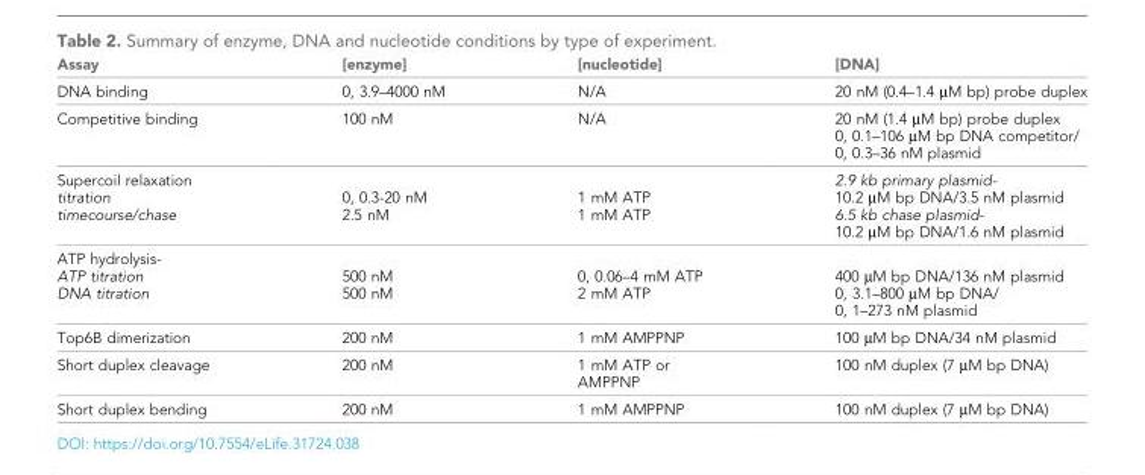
<table><thead><tr><td>Assay</td><td>[enzyme]</td><td>[nucleotide]</td><td>[DNA]</td></tr></thead><tbody><tr><td>DNA binding</td><td>0, 3.9–4000 nM</td><td>N/A</td><td>20 nM (0.4–1.4 μM bp) probe duplex</td></tr><tr><td>Competitive binding</td><td>100 nM</td><td>N/A</td><td>20 nM (1.4 μM bp) probe duplex 0, 0.1–106 μM bp DNA competitor/ 0, 0.3–36 nM plasmid</td></tr><tr><td>Supercoil relaxation titration timecourse/chase</td><td>0, 0.3-20 nM 2.5 nM</td><td>1 mM ATP 1 mM ATP</td><td>2.9 kb primary plasmid- 10.2 μM bp DNA/3.5 nM plasmid 6.5 kb chase plasmid- 10.2 μM bp DNA/1.6 nM plasmid</td></tr><tr><td>ATP hydrolysis- ATP titration DNA titration</td><td>500 nM 500 nM</td><td>0, 0.06–4 mM ATP 2 mM ATP</td><td>400 μM bp DNA/136 nM plasmid 0, 3.1–800 μM bp DNA/ 0, 1–273 nM plasmid</td></tr><tr><td>Top6B dimerization</td><td>200 nM</td><td>1 mM AMPPNP</td><td>100 μM bp DNA/34 nM plasmid</td></tr><tr><td>Short duplex cleavage</td><td>200 nM</td><td>1 mM ATP or AMPPNP</td><td>100 nM duplex (7 μM bp DNA)</td></tr><tr><td>Short duplex bending</td><td>200 nM</td><td>1 mM AMPPNP</td><td>100 nM duplex (7 μM bp DNA)</td></tr></tbody></table>